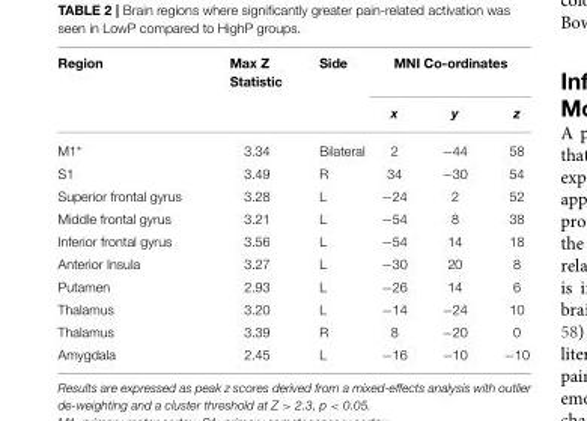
<table><thead><tr><td rowspan="2">Region</td><td rowspan="2">Max Z Statistic</td><td rowspan="2">Side</td><td colspan="3">MNI Co-ordinates</td></tr><tr><td>x</td><td>y</td><td>z</td></tr></thead><tbody><tr><td>M1*</td><td>3.34</td><td>Bilateral</td><td>2</td><td>−44</td><td>58</td></tr><tr><td>S1</td><td>3.49</td><td>R</td><td>34</td><td>−30</td><td>54</td></tr><tr><td>Superior frontal gyrus</td><td>3.28</td><td>L</td><td>−24</td><td>2</td><td>52</td></tr><tr><td>Middle frontal gyrus</td><td>3.21</td><td>L</td><td>−54</td><td>8</td><td>38</td></tr><tr><td>Inferior frontal gyrus</td><td>3.56</td><td>L</td><td>−54</td><td>14</td><td>18</td></tr><tr><td>Anterior Insula</td><td>3.27</td><td>L</td><td>−30</td><td>20</td><td>8</td></tr><tr><td>Putamen</td><td>2.93</td><td>L</td><td>−26</td><td>14</td><td>6</td></tr><tr><td>Thalamus</td><td>3.20</td><td>L</td><td>−14</td><td>−24</td><td>10</td></tr><tr><td>Thalamus</td><td>3.39</td><td>R</td><td>8</td><td>−20</td><td>0</td></tr><tr><td>Amygdala</td><td>2.45</td><td>L</td><td>−16</td><td>−10</td><td>−10</td></tr></tbody></table>